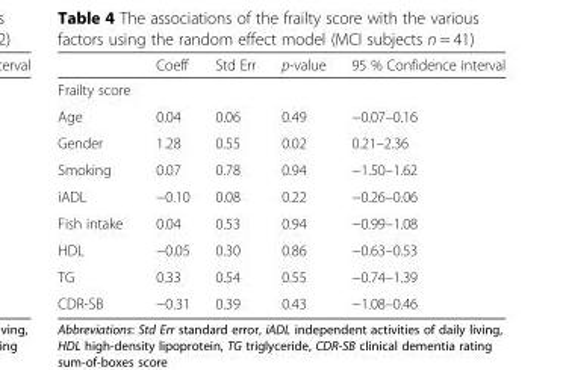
<table><thead><tr><td></td><td>Coeff</td><td>Std Err</td><td>p-value</td><td>95 % Confidence interval</td></tr></thead><tbody><tr><td colspan="5">Frailty score</td></tr><tr><td>Age</td><td>0.04</td><td>0.06</td><td>0.49</td><td>−0.07–0.16</td></tr><tr><td>Gender</td><td>1.28</td><td>0.55</td><td>0.02</td><td>0.21–2.36</td></tr><tr><td>Smoking</td><td>0.07</td><td>0.78</td><td>0.94</td><td>−1.50–1.62</td></tr><tr><td>iADL</td><td>−0.10</td><td>0.08</td><td>0.22</td><td>−0.26–0.06</td></tr><tr><td>Fish intake</td><td>0.04</td><td>0.53</td><td>0.94</td><td>−0.99–1.08</td></tr><tr><td>HDL</td><td>−0.05</td><td>0.30</td><td>0.86</td><td>−0.63–0.53</td></tr><tr><td>TG</td><td>0.33</td><td>0.54</td><td>0.55</td><td>−0.74–1.39</td></tr><tr><td>CDR-SB</td><td>−0.31</td><td>0.39</td><td>0.43</td><td>−1.08–0.46</td></tr></tbody></table>